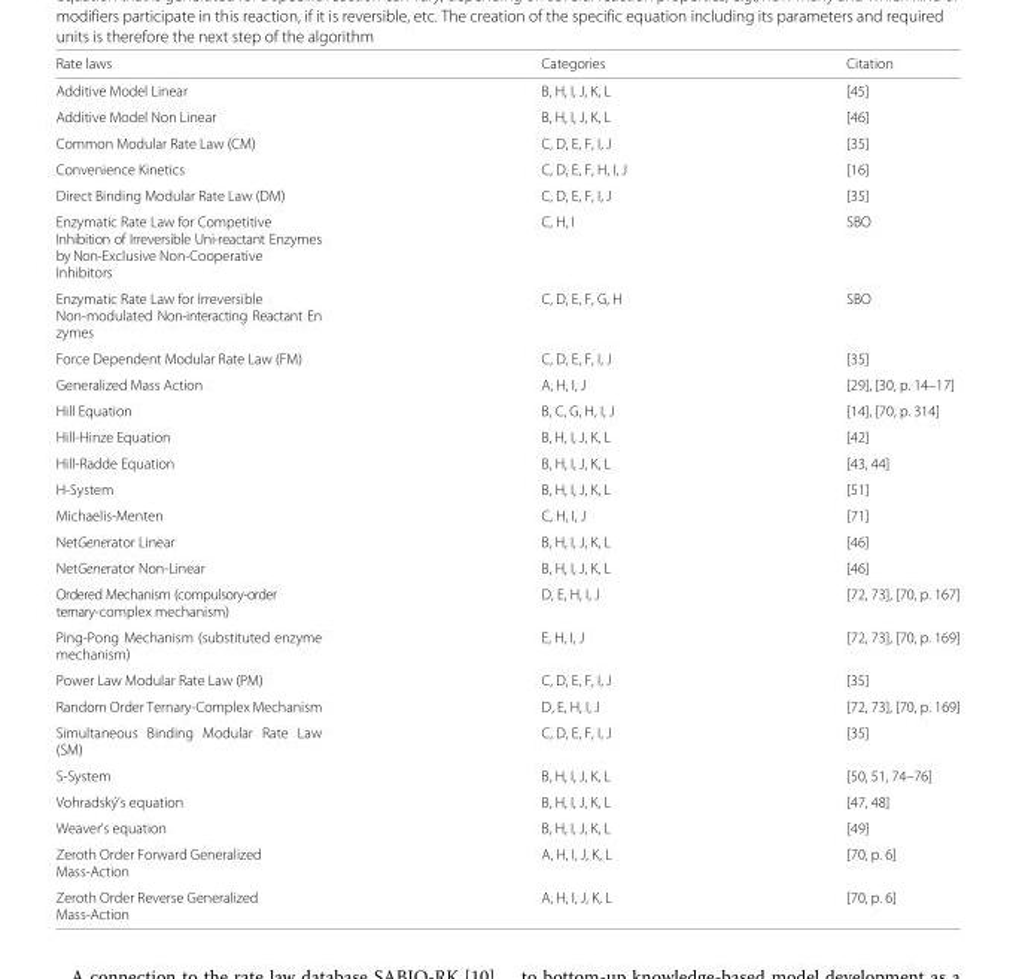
<table><thead><tr><td>Rate laws</td><td>Categories</td><td>Citation</td></tr></thead><tbody><tr><td>Additive Model Linear</td><td>B, H, I, J, K, L</td><td>[45]</td></tr><tr><td>Additive Model Non Linear</td><td>B, H, I, J, K, L</td><td>[46]</td></tr><tr><td>Common Modular Rate Law (CM)</td><td>C, D, E, F, I, J</td><td>[35]</td></tr><tr><td>Convenience Kinetics</td><td>C, D, E, F, H, I, J</td><td>[16]</td></tr><tr><td>Direct Binding Modular Rate Law (DM)</td><td>C, D, E, F, I, J</td><td>[35]</td></tr><tr><td>Enzymatic Rate Law for Competitive Inhibition of Irreversible Uni-reactant Enzymes by Non-Exclusive Non-Cooperative Inhibitors</td><td>C, H, I</td><td>SBO</td></tr><tr><td>Enzymatic Rate Law for Irreversible Non-modulated Non-interacting Reactant En zymes</td><td>C, D, E, F, G, H</td><td>SBO</td></tr><tr><td>Force Dependent Modular Rate Law (FM)</td><td>C, D, E, F, I, J</td><td>[35]</td></tr><tr><td>Generalized Mass Action</td><td>A, H, I, J</td><td>[29], [30, p. 14–17]</td></tr><tr><td>Hill Equation</td><td>B, C, G, H, I, J</td><td>[14], [70, p. 314]</td></tr><tr><td>Hill-Hinze Equation</td><td>B, H, I, J, K, L</td><td>[42]</td></tr><tr><td>Hill-Radde Equation</td><td>B, H, I, J, K, L</td><td>[43, 44]</td></tr><tr><td>H-System</td><td>B, H, I, J, K, L</td><td>[51]</td></tr><tr><td>Michaelis-Menten</td><td>C, H, I, J</td><td>[71]</td></tr><tr><td>NetGenerator Linear</td><td>B, H, I, J, K, L</td><td>[46]</td></tr><tr><td>NetGenerator Non-Linear</td><td>B, H, I, J, K, L</td><td>[46]</td></tr><tr><td>Ordered Mechanism (compulsory-order ternary-complex mechanism)</td><td>D, E, H, I, J</td><td>[72, 73], [70, p. 167]</td></tr><tr><td>Ping-Pong Mechanism (substituted enzyme mechanism)</td><td>E, H, I, J</td><td>[72, 73], [70, p. 169]</td></tr><tr><td>Power Law Modular Rate Law (PM)</td><td>C, D, E, F, I, J</td><td>[35]</td></tr><tr><td>Random Order Ternary-Complex Mechanism</td><td>D, E, H, I, J</td><td>[72, 73], [70, p. 169]</td></tr><tr><td>Simultaneous Binding Modular Rate Law (SM)</td><td>C, D, E, F, I, J</td><td>[35]</td></tr><tr><td>S-System</td><td>B, H, I, J, K, L</td><td>[50, 51, 74–76]</td></tr><tr><td>Vohradský’s equation</td><td>B, H, I, J, K, L</td><td>[47, 48]</td></tr><tr><td>Weaver’s equation</td><td>B, H, I, J, K, L</td><td>[49]</td></tr><tr><td>Zeroth Order Forward Generalized Mass-Action</td><td>A, H, I, J, K, L</td><td>[70, p. 6]</td></tr><tr><td>Zeroth Order Reverse Generalized Mass-Action</td><td>A, H, I, J, K, L</td><td>[70, p. 6]</td></tr></tbody></table>